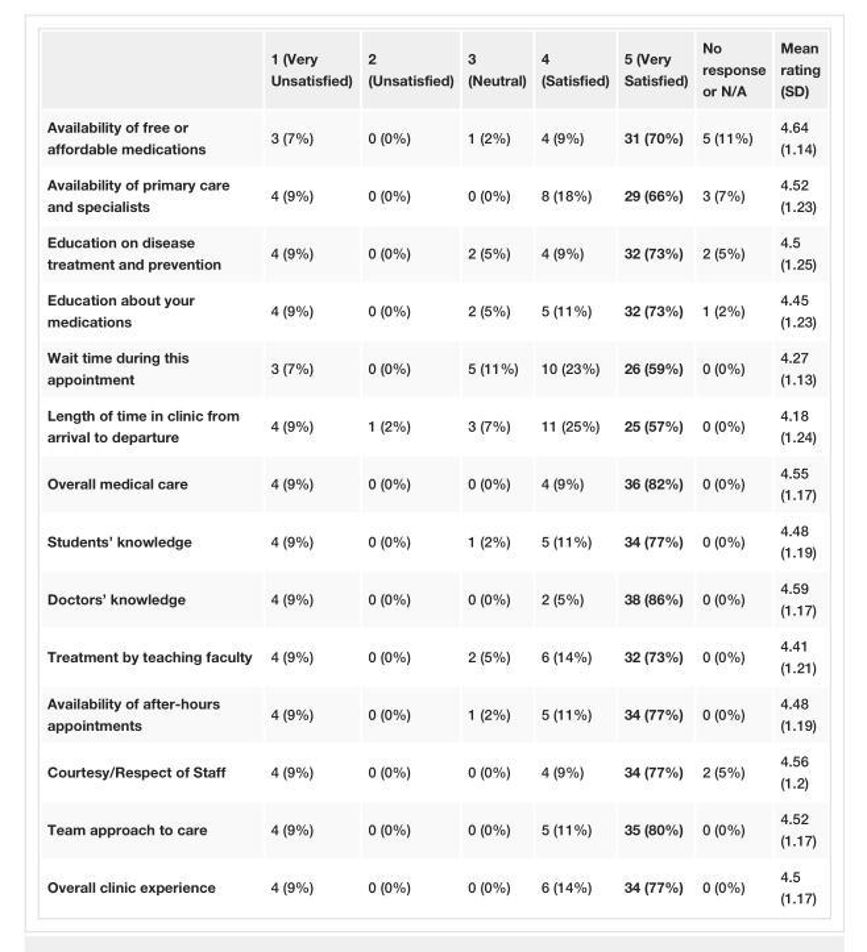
<table><thead><tr><td></td><td>1 (Very Unsatisfied)</td><td>2 (Unsatisfied)</td><td>3 (Neutral)</td><td>4 (Satisfied)</td><td>5 (Very Satisfied)</td><td>No response or N/A</td><td>Mean rating (SD)</td></tr></thead><tbody><tr><td>Availability of free or affordable medications</td><td>3 (7%)</td><td>0 (0%)</td><td>1 (2%)</td><td>4 (9%)</td><td>31 (70%)</td><td>5 (11%)</td><td>4.64 (1.14)</td></tr><tr><td>Availability of primary care and specialists</td><td>4 (9%)</td><td>0 (0%)</td><td>0 (0%)</td><td>8 (18%)</td><td>29 (66%)</td><td>3 (7%)</td><td>4.52 (1.23)</td></tr><tr><td>Education on disease treatment and prevention</td><td>4 (9%)</td><td>0 (0%)</td><td>2 (5%)</td><td>4 (9%)</td><td>32 (73%)</td><td>2 (5%)</td><td>4.5 (1.25)</td></tr><tr><td>Education about your medications</td><td>4 (9%)</td><td>0 (0%)</td><td>2 (5%)</td><td>5 (11%)</td><td>32 (73%)</td><td>1 (2%)</td><td>4.45 (1.23)</td></tr><tr><td>Wait time during this appointment</td><td>3 (7%)</td><td>0 (0%)</td><td>5 (11%)</td><td>10 (23%)</td><td>26 (59%)</td><td>0 (0%)</td><td>4.27 (1.13)</td></tr><tr><td>Length of time in clinic from arrival to departure</td><td>4 (9%)</td><td>1 (2%)</td><td>3 (7%)</td><td>11 (25%)</td><td>25 (57%)</td><td>0 (0%)</td><td>4.18 (1.24)</td></tr><tr><td>Overall medical care</td><td>4 (9%)</td><td>0 (0%)</td><td>0 (0%)</td><td>4 (9%)</td><td>36 (82%)</td><td>0 (0%)</td><td>4.55 (1.17)</td></tr><tr><td>Students’ knowledge</td><td>4 (9%)</td><td>0 (0%)</td><td>1 (2%)</td><td>5 (11%)</td><td>34 (77%)</td><td>0 (0%)</td><td>4.48 (1.19)</td></tr><tr><td>Doctors’ knowledge</td><td>4 (9%)</td><td>0 (0%)</td><td>0 (0%)</td><td>2 (5%)</td><td>38 (86%)</td><td>0 (0%)</td><td>4.59 (1.17)</td></tr><tr><td>Treatment by teaching faculty</td><td>4 (9%)</td><td>0 (0%)</td><td>2 (5%)</td><td>6 (14%)</td><td>32 (73%)</td><td>0 (0%)</td><td>4.41 (1.21)</td></tr><tr><td>Availability of after-hours appointments</td><td>4 (9%)</td><td>0 (0%)</td><td>1 (2%)</td><td>5 (11%)</td><td>34 (77%)</td><td>0 (0%)</td><td>4.48 (1.19)</td></tr><tr><td>Courtesy/Respect of Staff</td><td>4 (9%)</td><td>0 (0%)</td><td>0 (0%)</td><td>4 (9%)</td><td>34 (77%)</td><td>2 (5%)</td><td>4.56 (1.2)</td></tr><tr><td>Team approach to care</td><td>4 (9%)</td><td>0 (0%)</td><td>0 (0%)</td><td>5 (11%)</td><td>35 (80%)</td><td>0 (0%)</td><td>4.52 (1.17)</td></tr><tr><td>Overall clinic experience</td><td>4 (9%)</td><td>0 (0%)</td><td>0 (0%)</td><td>6 (14%)</td><td>34 (77%)</td><td>0 (0%)</td><td>4.5 (1.17)</td></tr></tbody></table>